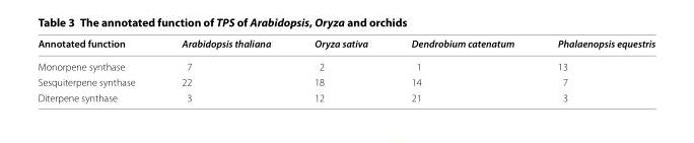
<table><thead><tr><td>Annotated function</td><td>Arabidopsis thaliana</td><td>Oryza sativa</td><td>Dendrobium catenatum</td><td>Phalaenopsis equestris</td></tr></thead><tbody><tr><td>Monorpene synthase</td><td>7</td><td>2</td><td>1</td><td>13</td></tr><tr><td>Sesquiterpene synthase</td><td>22</td><td>18</td><td>14</td><td>7</td></tr><tr><td>Diterpene synthase</td><td>3</td><td>12</td><td>21</td><td>3</td></tr></tbody></table>